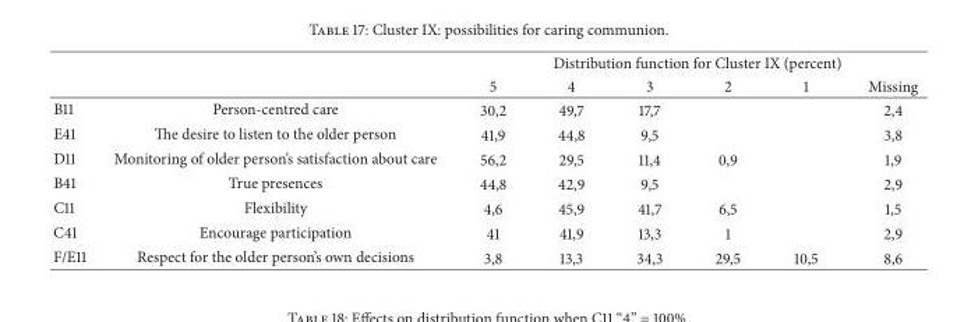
<table><thead><tr><td rowspan="2"></td><td rowspan="2"></td><td colspan="6">Distribution function for Cluster IX (percent)</td></tr><tr><td>5</td><td>4</td><td>3</td><td>2</td><td>1</td><td>Missing</td></tr></thead><tbody><tr><td>B11</td><td>Person-centred care</td><td>30,2</td><td>49,7</td><td>17,7</td><td></td><td></td><td>2,4</td></tr><tr><td>E41</td><td>The desire to listen to the older person</td><td>41,9</td><td>44,8</td><td>9,5</td><td></td><td></td><td>3,8</td></tr><tr><td>D11</td><td>Monitoring of older person’s satisfaction about care</td><td>56,2</td><td>29,5</td><td>11,4</td><td>0,9</td><td></td><td>1,9</td></tr><tr><td>B41</td><td>True presences</td><td>44,8</td><td>42,9</td><td>9,5</td><td></td><td></td><td>2,9</td></tr><tr><td>C11</td><td>Flexibility</td><td>4,6</td><td>45,9</td><td>41,7</td><td>6,5</td><td></td><td>1,5</td></tr><tr><td>C41</td><td>Encourage participation</td><td>41</td><td>41,9</td><td>13,3</td><td>1</td><td></td><td>2,9</td></tr><tr><td>F/E11</td><td>Respect for the older person’s own decisions</td><td>3,8</td><td>13,3</td><td>34,3</td><td>29,5</td><td>10,5</td><td>8,6</td></tr></tbody></table>